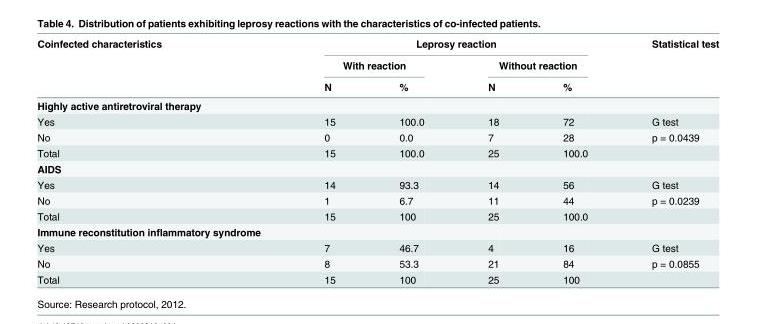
<table><thead><tr><td rowspan="3">Coinfected characteristics</td><td colspan="4">Leprosy reaction</td><td rowspan="3">Statistical test</td></tr><tr><td colspan="2">With reaction</td><td colspan="2">Without reaction</td></tr><tr><td>N</td><td>%</td><td>N</td><td>%</td></tr></thead><tbody><tr><td colspan="6">Highly active antiretroviral therapy</td></tr><tr><td>Yes</td><td>15</td><td>100.0</td><td>18</td><td>72</td><td>G test</td></tr><tr><td>No</td><td>0</td><td>0.0</td><td>7</td><td>28</td><td>p = 0.0439</td></tr><tr><td>Total</td><td>15</td><td>100.0</td><td>25</td><td>100.0</td><td></td></tr><tr><td colspan="6">AIDS</td></tr><tr><td>Yes</td><td>14</td><td>93.3</td><td>14</td><td>56</td><td>G test</td></tr><tr><td>No</td><td>1</td><td>6.7</td><td>11</td><td>44</td><td>p = 0.0239</td></tr><tr><td>Total</td><td>15</td><td>100</td><td>25</td><td>100.0</td><td></td></tr><tr><td colspan="6">Immune reconstitution inflammatory syndrome</td></tr><tr><td>Yes</td><td>7</td><td>46.7</td><td>4</td><td>16</td><td>G test</td></tr><tr><td>No</td><td>8</td><td>53.3</td><td>21</td><td>84</td><td>p = 0.0855</td></tr><tr><td>Total</td><td>15</td><td>100</td><td>25</td><td>100</td><td></td></tr></tbody></table>